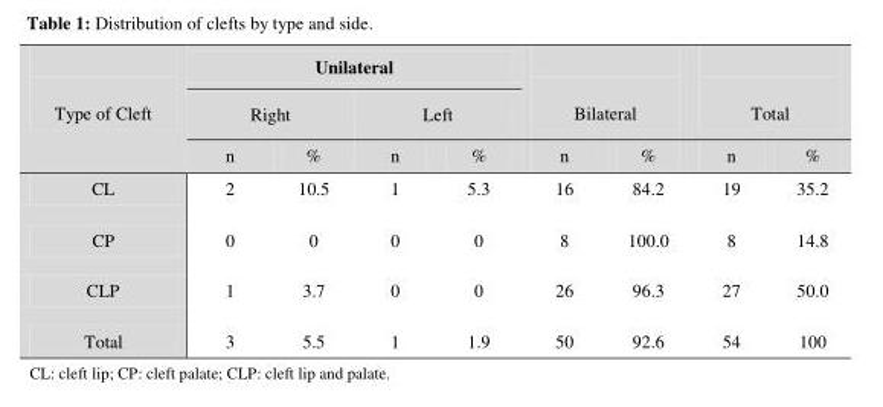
<table><thead><tr><td rowspan="3">Type of Cleft</td><td colspan="4">Unilateral</td><td rowspan="2" colspan="2">Bilateral</td><td rowspan="2" colspan="2">Total</td></tr><tr><td colspan="2">Right</td><td colspan="2">Left</td></tr><tr><td>n</td><td>%</td><td>n</td><td>%</td><td>n</td><td>%</td><td>n</td><td>%</td></tr></thead><tbody><tr><td>CL</td><td>2</td><td>10.5</td><td>1</td><td>5.3</td><td>16</td><td>84.2</td><td>19</td><td>35.2</td></tr><tr><td>CP</td><td>0</td><td>0</td><td>0</td><td>0</td><td>8</td><td>100.0</td><td>8</td><td>14.8</td></tr><tr><td>CLP</td><td>1</td><td>3.7</td><td>0</td><td>0</td><td>26</td><td>96.3</td><td>27</td><td>50.0</td></tr><tr><td>Total</td><td>3</td><td>5.5</td><td>1</td><td>1.9</td><td>50</td><td>92.6</td><td>54</td><td>100</td></tr></tbody></table>